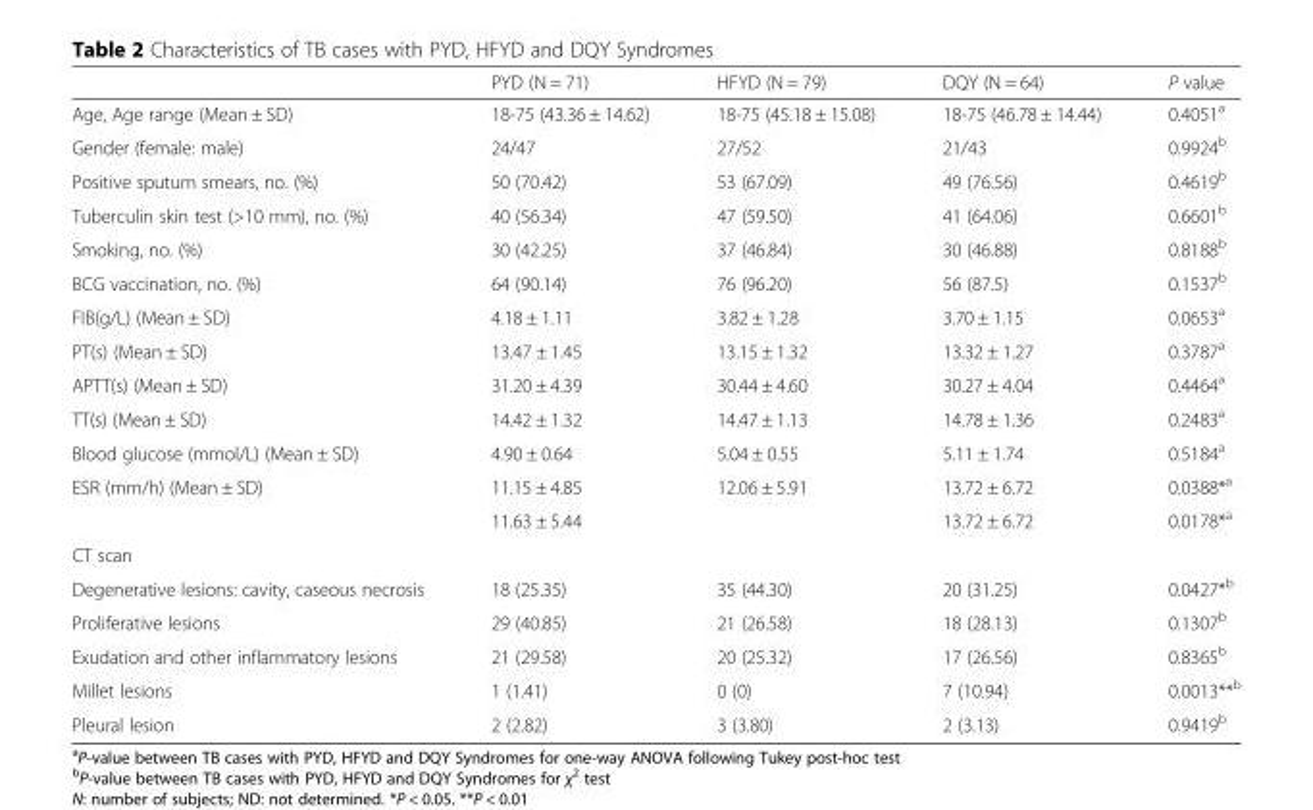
<table><thead><tr><td></td><td>PYD (N = 71)</td><td>HFYD (N = 79)</td><td>DQY (N = 64)</td><td>P value</td></tr></thead><tbody><tr><td>Age, Age range (Mean ± SD)</td><td>18-75 (43.36 ± 14.62)</td><td>18-75 (45.18 ± 15.08)</td><td>18-75 (46.78 ± 14.44)</td><td>0.4051<sup>a</sup></td></tr><tr><td>Gender (female: male)</td><td>24/47</td><td>27/52</td><td>21/43</td><td>0.9924<sup>b</sup></td></tr><tr><td>Positive sputum smears, no. (%)</td><td>50 (70.42)</td><td>53 (67.09)</td><td>49 (76.56)</td><td>0.4619<sup>b</sup></td></tr><tr><td>Tuberculin skin test (&gt;10 mm), no. (%)</td><td>40 (56.34)</td><td>47 (59.50)</td><td>41 (64.06)</td><td>0.6601<sup>b</sup></td></tr><tr><td>Smoking, no. (%)</td><td>30 (42.25)</td><td>37 (46.84)</td><td>30 (46.88)</td><td>0.8188<sup>b</sup></td></tr><tr><td>BCG vaccination, no. (%)</td><td>64 (90.14)</td><td>76 (96.20)</td><td>56 (87.5)</td><td>0.1537<sup>b</sup></td></tr><tr><td>FIB(g/L) (Mean ± SD)</td><td>4.18 ± 1.11</td><td>3.82 ± 1.28</td><td>3.70 ± 1.15</td><td>0.0653<sup>a</sup></td></tr><tr><td>PT(s) (Mean ± SD)</td><td>13.47 ± 1.45</td><td>13.15 ± 1.32</td><td>13.32 ± 1.27</td><td>0.3787<sup>a</sup></td></tr><tr><td>APTT(s) (Mean ± SD)</td><td>31.20 ± 4.39</td><td>30.44 ± 4.60</td><td>30.27 ± 4.04</td><td>0.4464<sup>a</sup></td></tr><tr><td>TT(s) (Mean ± SD)</td><td>14.42 ± 1.32</td><td>14.47 ± 1.13</td><td>14.78 ± 1.36</td><td>0.2483<sup>a</sup></td></tr><tr><td>Blood glucose (mmol/L) (Mean ± SD)</td><td>4.90 ± 0.64</td><td>5.04 ± 0.55</td><td>5.11 ± 1.74</td><td>0.5184<sup>a</sup></td></tr><tr><td rowspan="2">ESR (mm/h) (Mean ± SD)</td><td>11.15 ± 4.85</td><td>12.06 ± 5.91</td><td>13.72 ± 6.72</td><td>0.0388*<sup>a</sup></td></tr><tr><td colspan="2">11.63 ± 5.44</td><td>13.72 ± 6.72</td><td>0.0178*<sup>a</sup></td></tr><tr><td colspan="5">CT scan</td></tr><tr><td>Degenerative lesions: cavity, caseous necrosis</td><td>18 (25.35)</td><td>35 (44.30)</td><td>20 (31.25)</td><td>0.0427*<sup>b</sup></td></tr><tr><td>Proliferative lesions</td><td>29 (40.85)</td><td>21 (26.58)</td><td>18 (28.13)</td><td>0.1307<sup>b</sup></td></tr><tr><td>Exudation and other inflammatory lesions</td><td>21 (29.58)</td><td>20 (25.32)</td><td>17 (26.56)</td><td>0.8365<sup>b</sup></td></tr><tr><td>Millet lesions</td><td>1 (1.41)</td><td>0 (0)</td><td>7 (10.94)</td><td>0.0013**<sup>b</sup></td></tr><tr><td>Pleural lesion</td><td>2 (2.82)</td><td>3 (3.80)</td><td>2 (3.13)</td><td>0.9419<sup>b</sup></td></tr></tbody></table>